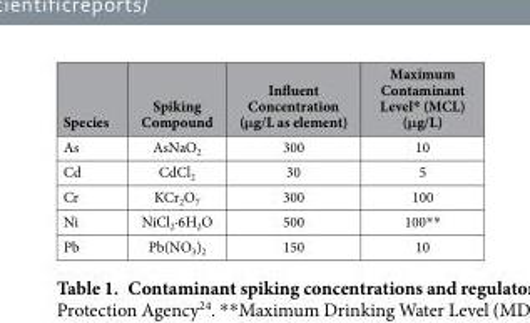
<table><thead><tr><td>Species</td><td>Spiking Compound</td><td>Influent Concentration (μg/L as element)</td><td>Maximum Contaminant Level* (MCL) (μg/L)</td></tr></thead><tbody><tr><td>As</td><td>AsNaO<sub>2</sub></td><td>300</td><td>10</td></tr><tr><td>Cd</td><td>CdCl<sub>2</sub></td><td>30</td><td>5</td></tr><tr><td>Cr</td><td>KCr<sub>2</sub>O<sub>7</sub></td><td>300</td><td>100</td></tr><tr><td>Ni</td><td>NiCl<sub>2</sub>∙6H<sub>2</sub>O</td><td>500</td><td>100* *</td></tr><tr><td>Pb</td><td>Pb(NO<sub>3</sub>)<sub>2</sub></td><td>150</td><td>10</td></tr></tbody></table>